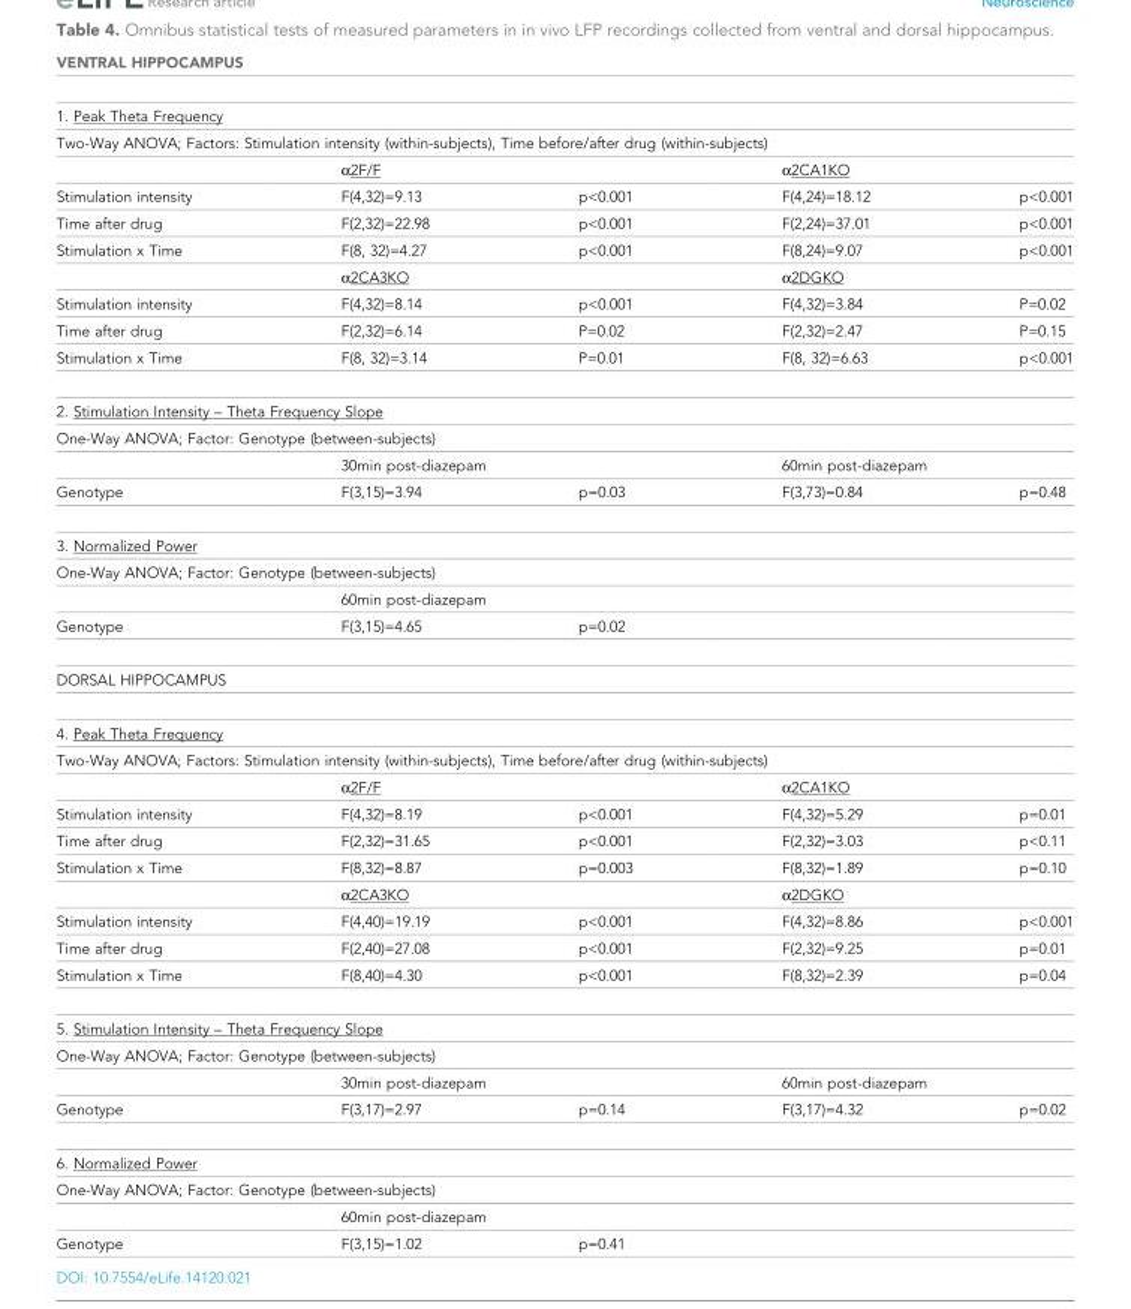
<table><thead><tr><td colspan="5">VENTRAL HIPPOCAMPUS</td></tr></thead><tbody><tr><td colspan="5">1. Peak Theta Frequency</td></tr><tr><td colspan="5">Two-Way ANOVA; Factors: Stimulation intensity (within-subjects), Time before/after drug (within-subjects)</td></tr><tr><td></td><td colspan="2">α2F/F</td><td colspan="2">α2CA1KO</td></tr><tr><td>Stimulation intensity</td><td>F(4,32)=9.13</td><td>p&lt;0.001</td><td>F(4,24)=18.12</td><td>p&lt;0.001</td></tr><tr><td>Time after drug</td><td>F(2,32)=22.98</td><td>p&lt;0.001</td><td>F(2,24)=37.01</td><td>p&lt;0.001</td></tr><tr><td rowspan="2">Stimulation x Time</td><td>F(8, 32)=4.27</td><td>p&lt;0.001</td><td>F(8,24)=9.07</td><td>p&lt;0.001</td></tr><tr><td colspan="2">α2CA3KO</td><td colspan="2">α2DGKO</td></tr><tr><td>Stimulation intensity</td><td>F(4,32)=8.14</td><td>p&lt;0.001</td><td>F(4,32)=3.84</td><td>P=0.02</td></tr><tr><td>Time after drug</td><td>F(2,32)=6.14</td><td>P=0.02</td><td>F(2,32)=2.47</td><td>P=0.15</td></tr><tr><td>Stimulation x Time</td><td>F(8, 32)=3.14</td><td>P=0.01</td><td>F(8, 32)=6.63</td><td>p&lt;0.001</td></tr><tr><td colspan="5">2. Stimulation Intensity – Theta Frequency Slope</td></tr><tr><td colspan="5">One-Way ANOVA; Factor: Genotype (between-subjects)</td></tr><tr><td></td><td colspan="2">30min post-diazepam</td><td colspan="2">60min post-diazepam</td></tr><tr><td>Genotype</td><td>F(3,15)=3.94</td><td>p=0.03</td><td>F(3,73)=0.84</td><td>p=0.48</td></tr><tr><td colspan="5">3. Normalized Power</td></tr><tr><td colspan="5">One-Way ANOVA; Factor: Genotype (between-subjects)</td></tr><tr><td></td><td colspan="2">60min post-diazepam</td><td colspan="2"></td></tr><tr><td>Genotype</td><td>F(3,15)=4.65</td><td>p=0.02</td><td></td><td></td></tr><tr><td colspan="5">DORSAL HIPPOCAMPUS</td></tr><tr><td colspan="5">4. Peak Theta Frequency</td></tr><tr><td colspan="5">Two-Way ANOVA; Factors: Stimulation intensity (within-subjects), Time before/after drug (within-subjects)</td></tr><tr><td></td><td colspan="2">α2F/F</td><td colspan="2">α2CA1KO</td></tr><tr><td>Stimulation intensity</td><td>F(4,32)=8.19</td><td>p&lt;0.001</td><td>F(4,32)=5.29</td><td>p=0.01</td></tr><tr><td>Time after drug</td><td>F(2,32)=31.65</td><td>p&lt;0.001</td><td>F(2,32)=3.03</td><td>p&lt;0.11</td></tr><tr><td rowspan="2">Stimulation x Time</td><td>F(8,32)=8.87</td><td>p=0.003</td><td>F(8,32)=1.89</td><td>p=0.10</td></tr><tr><td colspan="2">α2CA3KO</td><td colspan="2">α2DGKO</td></tr><tr><td>Stimulation intensity</td><td>F(4,40)=19.19</td><td>p&lt;0.001</td><td>F(4,32)=8.86</td><td>p&lt;0.001</td></tr><tr><td>Time after drug</td><td>F(2,40)=27.08</td><td>p&lt;0.001</td><td>F(2,32)=9.25</td><td>p=0.01</td></tr><tr><td>Stimulation x Time</td><td>F(8,40)=4.30</td><td>p&lt;0.001</td><td>F(8,32)=2.39</td><td>p=0.04</td></tr><tr><td colspan="5">5. Stimulation Intensity – Theta Frequency Slope</td></tr><tr><td colspan="5">One-Way ANOVA; Factor: Genotype (between-subjects)</td></tr><tr><td></td><td colspan="2">30min post-diazepam</td><td colspan="2">60min post-diazepam</td></tr><tr><td>Genotype</td><td>F(3,17)=2.97</td><td>p=0.14</td><td>F(3,17)=4.32</td><td>p=0.02</td></tr><tr><td colspan="5">6. Normalized Power</td></tr><tr><td colspan="5">One-Way ANOVA; Factor: Genotype (between-subjects)</td></tr><tr><td></td><td colspan="2">60min post-diazepam</td><td colspan="2"></td></tr><tr><td>Genotype</td><td>F(3,15)=1.02</td><td>p=0.41</td><td></td><td></td></tr></tbody></table>